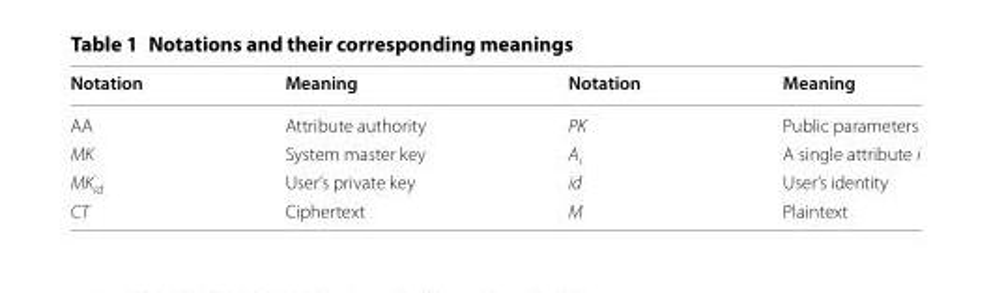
<table><thead><tr><td>Notation</td><td>Meaning</td><td>Notation</td><td>Meaning</td></tr></thead><tbody><tr><td>AA</td><td>Attribute authority</td><td>PK</td><td>Public parameters</td></tr><tr><td>MK</td><td>System master key</td><td>A<sub>i</sub></td><td>A single attribute i</td></tr><tr><td>MK<sub>id</sub></td><td>User’s private key</td><td>id</td><td>User’s identity</td></tr><tr><td>CT</td><td>Ciphertext</td><td>M</td><td>Plaintext</td></tr></tbody></table>